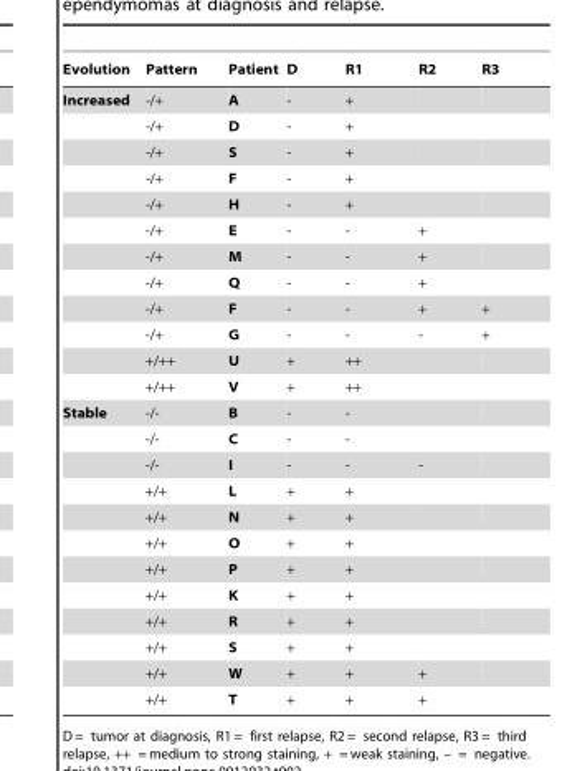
<table><thead><tr><td>Evolution</td><td>Pattern</td><td>Patient</td><td>D</td><td>R1</td><td>R2</td><td>R3</td></tr></thead><tbody><tr><td rowspan="12">Increased</td><td>-/+</td><td>A</td><td>-</td><td>+</td><td></td><td></td></tr><tr><td>-/+</td><td>D</td><td>-</td><td>+</td><td></td><td></td></tr><tr><td>-/+</td><td>S</td><td>-</td><td>+</td><td></td><td></td></tr><tr><td>-/+</td><td>F</td><td>-</td><td>+</td><td></td><td></td></tr><tr><td>-/+</td><td>H</td><td>-</td><td>+</td><td></td><td></td></tr><tr><td>-/+</td><td>E</td><td>-</td><td>-</td><td>+</td><td></td></tr><tr><td>-/+</td><td>M</td><td>-</td><td>-</td><td>+</td><td></td></tr><tr><td>-/+</td><td>Q</td><td>-</td><td>-</td><td>+</td><td></td></tr><tr><td>-/+</td><td>F</td><td>-</td><td>-</td><td>+</td><td>+</td></tr><tr><td>-/+</td><td>G</td><td>-</td><td>-</td><td>-</td><td>+</td></tr><tr><td>+/++</td><td>U</td><td>+</td><td>++</td><td></td><td></td></tr><tr><td>+/++</td><td>V</td><td>+</td><td>++</td><td></td><td></td></tr><tr><td rowspan="12">Stable</td><td>-/-</td><td>B</td><td>-</td><td>-</td><td></td><td></td></tr><tr><td>-/-</td><td>C</td><td>-</td><td>-</td><td></td><td></td></tr><tr><td>-/-</td><td>I</td><td>-</td><td>-</td><td>-</td><td></td></tr><tr><td>+/+</td><td>L</td><td>+</td><td>+</td><td></td><td></td></tr><tr><td>+/+</td><td>N</td><td>+</td><td>+</td><td></td><td></td></tr><tr><td>+/+</td><td>O</td><td>+</td><td>+</td><td></td><td></td></tr><tr><td>+/+</td><td>P</td><td>+</td><td>+</td><td></td><td></td></tr><tr><td>+/+</td><td>K</td><td>+</td><td>+</td><td></td><td></td></tr><tr><td>+/+</td><td>R</td><td>+</td><td>+</td><td></td><td></td></tr><tr><td>+/+</td><td>S</td><td>+</td><td>+</td><td></td><td></td></tr><tr><td>+/+</td><td>W</td><td>+</td><td>+</td><td>+</td><td></td></tr><tr><td>+/+</td><td>T</td><td>+</td><td>+</td><td>+</td><td></td></tr></tbody></table>